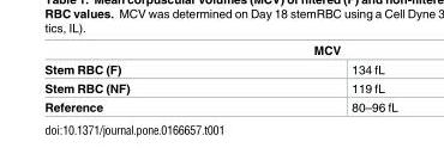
<table><thead><tr><td colspan="2">MCV</td></tr><tr><td>Stem RBC (F)</td><td>134 fL</td></tr></thead><tbody><tr><td>Stem RBC (NF)</td><td>119 fL</td></tr><tr><td>Reference</td><td>80–96 fL</td></tr></tbody></table>